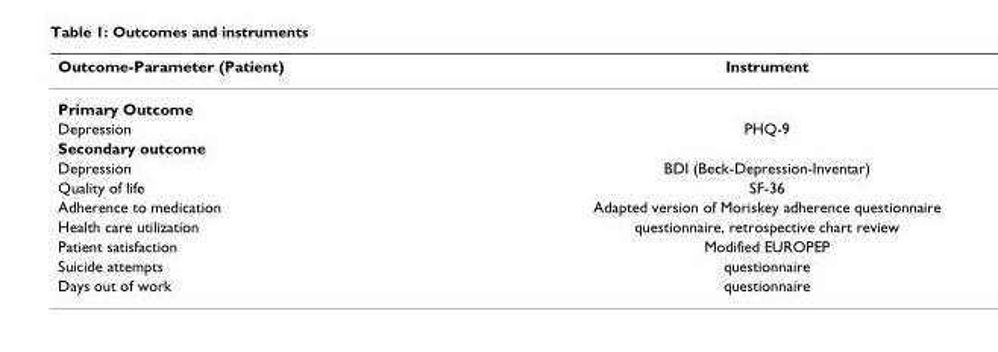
<table><thead><tr><td>Outcome-Parameter (Patient)</td><td>Instrument</td></tr></thead><tbody><tr><td colspan="2">Primary Outcome</td></tr><tr><td>Depression</td><td>PHQ-9</td></tr><tr><td colspan="2">Secondary outcome</td></tr><tr><td>Depression</td><td>BDI (Beck-Depression-Inventar)</td></tr><tr><td>Quality of life</td><td>SF-36</td></tr><tr><td>Adherence to medication</td><td>Adapted version of Moriskey adherence questionnaire</td></tr><tr><td>Health care utilization</td><td>questionnaire, retrospective chart review</td></tr><tr><td>Patient satisfaction</td><td>Modified EUROPEP</td></tr><tr><td>Suicide attempts</td><td>questionnaire</td></tr><tr><td>Days out of work</td><td>questionnaire</td></tr></tbody></table>